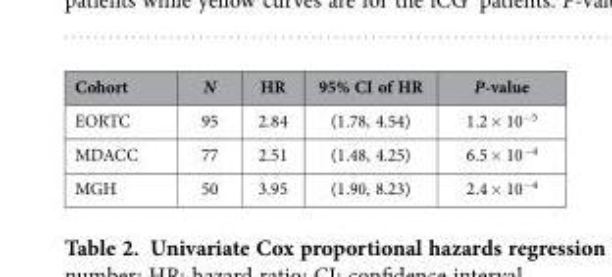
<table><thead><tr><td>Cohort</td><td>N</td><td>HR</td><td>95% CI of HR</td><td>P-value</td></tr></thead><tbody><tr><td>EORTC</td><td>95</td><td>2.84</td><td>(1.78, 4.54)</td><td>1.2 × 10<sup>−5</sup></td></tr><tr><td>MDACC</td><td>77</td><td>2.51</td><td>(1.48, 4.25)</td><td>6.5 × 10<sup>−4</sup></td></tr><tr><td>MGH</td><td>50</td><td>3.95</td><td>(1.90, 8.23)</td><td>2.4 × 10<sup>−4</sup></td></tr></tbody></table>